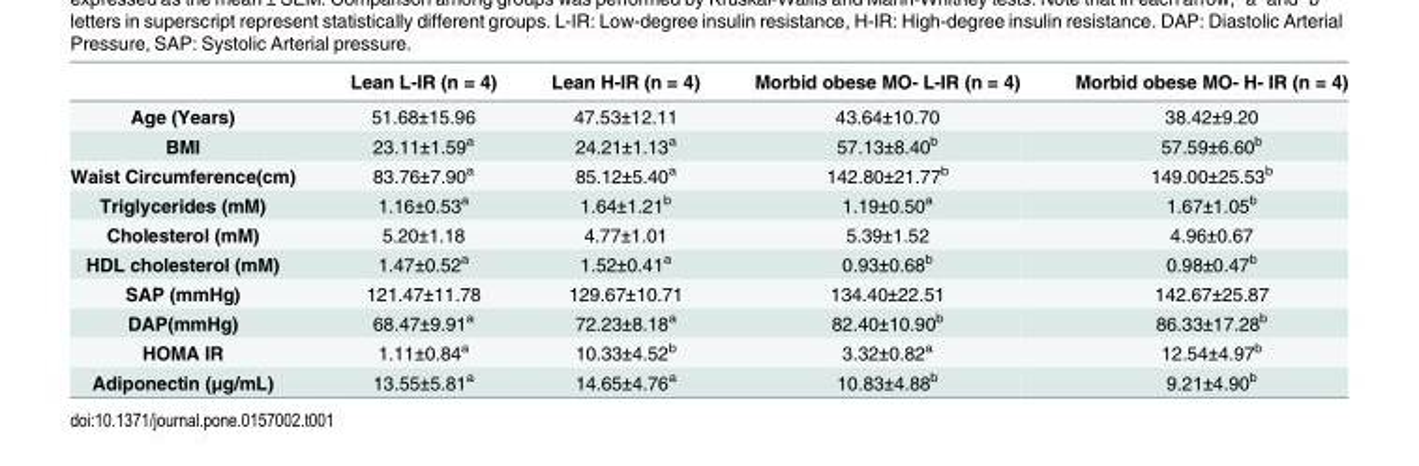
<table><thead><tr><td></td><td>Lean L-IR (n = 4)</td><td>Lean H-IR (n = 4)</td><td>Morbid obese MO- L-IR (n = 4)</td><td>Morbid obese MO- H- IR (n = 4)</td></tr></thead><tbody><tr><td>Age (Years)</td><td>51.68±15.96</td><td>47.53±12.11</td><td>43.64±10.70</td><td>38.42±9.20</td></tr><tr><td>BMI</td><td>23.11±1.59<sup>a</sup></td><td>24.21±1.13<sup>a</sup></td><td>57.13±8.40<sup>b</sup></td><td>57.59±6.60<sup>b</sup></td></tr><tr><td>Waist Circumference(cm)</td><td>83.76±7.90<sup>a</sup></td><td>85.12±5.40<sup>a</sup></td><td>142.80±21.77<sup>b</sup></td><td>149.00±25.53<sup>b</sup></td></tr><tr><td>Triglycerides (mM)</td><td>1.16±0.53<sup>a</sup></td><td>1.64±1.21<sup>b</sup></td><td>1.19±0.50<sup>a</sup></td><td>1.67±1.05<sup>b</sup></td></tr><tr><td>Cholesterol (mM)</td><td>5.20±1.18</td><td>4.77±1.01</td><td>5.39±1.52</td><td>4.96±0.67</td></tr><tr><td>HDL cholesterol (mM)</td><td>1.47±0.52<sup>a</sup></td><td>1.52±0.41<sup>a</sup></td><td>0.93±0.68<sup>b</sup></td><td>0.98±0.47<sup>b</sup></td></tr><tr><td>SAP (mmHg)</td><td>121.47±11.78</td><td>129.67±10.71</td><td>134.40±22.51</td><td>142.67±25.87</td></tr><tr><td>DAP(mmHg)</td><td>68.47±9.91<sup>a</sup></td><td>72.23±8.18<sup>a</sup></td><td>82.40±10.90<sup>b</sup></td><td>86.33±17.28<sup>b</sup></td></tr><tr><td>HOMA IR</td><td>1.11±0.84<sup>a</sup></td><td>10.33±4.52<sup>b</sup></td><td>3.32±0.82<sup>a</sup></td><td>12.54±4.97<sup>b</sup></td></tr><tr><td>Adiponectin (μg/mL)</td><td>13.55±5.81<sup>a</sup></td><td>14.65±4.76<sup>a</sup></td><td>10.83±4.88<sup>b</sup></td><td>9.21±4.90<sup>b</sup></td></tr></tbody></table>